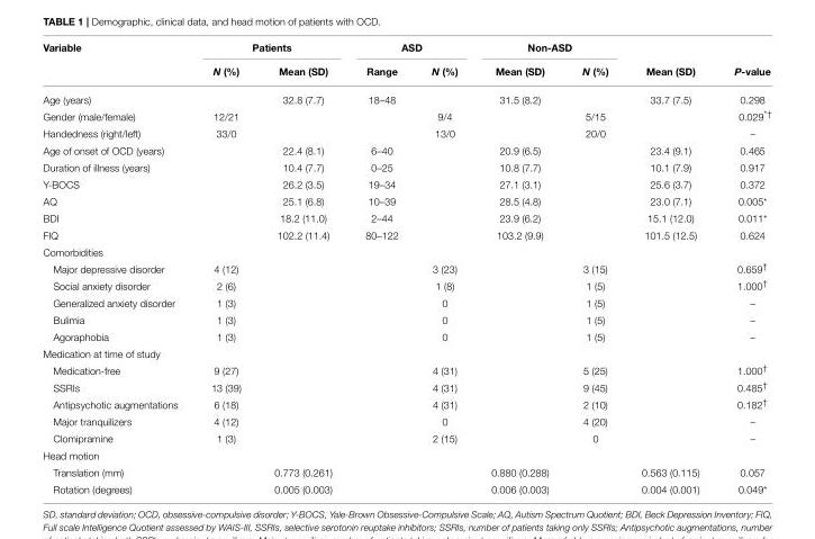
<table><thead><tr><td rowspan="2">Variable</td><td colspan="2">Patients</td><td colspan="2">ASD</td><td colspan="2">Non-ASD</td><td rowspan="2">Mean (SD)</td><td rowspan="2">P-value</td></tr><tr><td>N (%)</td><td>Mean (SD)</td><td>Range</td><td>N (%)</td><td>Mean (SD)</td><td>N (%)</td></tr></thead><tbody><tr><td>Age (years)</td><td></td><td>32.8 (7.7)</td><td>18–48</td><td></td><td>31.5 (8.2)</td><td></td><td>33.7 (7.5)</td><td>0.298</td></tr><tr><td>Gender (male/female)</td><td>12/21</td><td></td><td></td><td>9/4</td><td></td><td>5/15</td><td></td><td>0.029<sup>*†</sup></td></tr><tr><td>Handedness (right/left)</td><td>33/0</td><td></td><td></td><td>13/0</td><td></td><td>20/0</td><td></td><td>–</td></tr><tr><td>Age of onset of OCD (years)</td><td></td><td>22.4 (8.1)</td><td>6–40</td><td></td><td>20.9 (6.5)</td><td></td><td>23.4 (9.1)</td><td>0.465</td></tr><tr><td>Duration of illness (years)</td><td></td><td>10.4 (7.7)</td><td>0–25</td><td></td><td>10.8 (7.7)</td><td></td><td>10.1 (7.9)</td><td>0.917</td></tr><tr><td>Y-BOCS</td><td></td><td>26.2 (3.5)</td><td>19–34</td><td></td><td>27.1 (3.1)</td><td></td><td>25.6 (3.7)</td><td>0.372</td></tr><tr><td>AQ</td><td></td><td>25.1 (6.8)</td><td>10–39</td><td></td><td>28.5 (4.8)</td><td></td><td>23.0 (7.1)</td><td>0.005*</td></tr><tr><td>BDI</td><td></td><td>18.2 (11.0)</td><td>2–44</td><td></td><td>23.9 (6.2)</td><td></td><td>15.1 (12.0)</td><td>0.011*</td></tr><tr><td>FIQ</td><td></td><td>102.2 (11.4)</td><td>80–122</td><td></td><td>103.2 (9.9)</td><td></td><td>101.5 (12.5)</td><td>0.624</td></tr><tr><td colspan="9">Comorbidities</td></tr><tr><td>Major depressive disorder</td><td>4 (12)</td><td></td><td></td><td>3 (23)</td><td></td><td>3 (15)</td><td></td><td>0.659<sup>†</sup></td></tr><tr><td>Social anxiety disorder</td><td>2 (6)</td><td></td><td></td><td>1 (8)</td><td></td><td>1 (5)</td><td></td><td>1.000<sup>†</sup></td></tr><tr><td>Generalized anxiety disorder</td><td>1 (3)</td><td></td><td></td><td>0</td><td></td><td>1 (5)</td><td></td><td>–</td></tr><tr><td>Bulimia</td><td>1 (3)</td><td></td><td></td><td>0</td><td></td><td>1 (5)</td><td></td><td>–</td></tr><tr><td>Agoraphobia</td><td>1 (3)</td><td></td><td></td><td>0</td><td></td><td>1 (5)</td><td></td><td>–</td></tr><tr><td colspan="9">Medication at time of study</td></tr><tr><td>Medication-free</td><td>9 (27)</td><td></td><td></td><td>4 (31)</td><td></td><td>5 (25)</td><td></td><td>1.000<sup>†</sup></td></tr><tr><td>SSRIs</td><td>13 (39)</td><td></td><td></td><td>4 (31)</td><td></td><td>9 (45)</td><td></td><td>0.485<sup>†</sup></td></tr><tr><td>Antipsychotic augmentations</td><td>6 (18)</td><td></td><td></td><td>4 (31)</td><td></td><td>2 (10)</td><td></td><td>0.182<sup>†</sup></td></tr><tr><td>Major tranquilizers</td><td>4 (12)</td><td></td><td></td><td>0</td><td></td><td>4 (20)</td><td></td><td>–</td></tr><tr><td>Clomipramine</td><td>1 (3)</td><td></td><td></td><td>2 (15)</td><td></td><td>0</td><td></td><td>–</td></tr><tr><td colspan="9">Head motion</td></tr><tr><td>Translation (mm)</td><td></td><td>0.773 (0.261)</td><td></td><td></td><td>0.880 (0.288)</td><td></td><td>0.563 (0.115)</td><td>0.057</td></tr><tr><td>Rotation (degrees)</td><td></td><td>0.005 (0.003)</td><td></td><td></td><td>0.006 (0.003)</td><td></td><td>0.004 (0.001)</td><td>0.049*</td></tr></tbody></table>